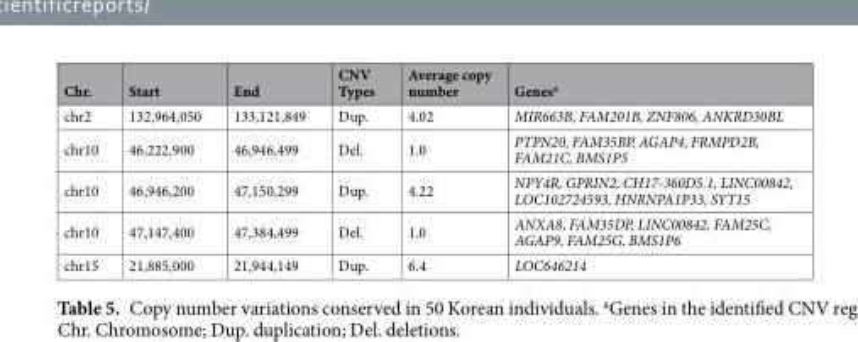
<table><thead><tr><td>Chr.</td><td>Start</td><td>End</td><td>CNV Types</td><td>Average copy number</td><td>Genes<sup>a</sup></td></tr></thead><tbody><tr><td>chr2</td><td>132,964,050</td><td>133,121,849</td><td>Dup.</td><td>4.02</td><td>MIR663B, FAM201B, ZNF806, ANKRD30BL</td></tr><tr><td>chr10</td><td>46,222,900</td><td>46,946,499</td><td>Del.</td><td>1.0</td><td>PTPN20, FAM35BP, AGAP4, FRMPD2B, FAM21C, BMS1P5</td></tr><tr><td>chr10</td><td>46,946,200</td><td>47,150,299</td><td>Dup.</td><td>4.22</td><td>NPY4R, GPRIN2, CH17-360D5.1, LINC00842, LOC102724593, HNRNPA1P33, SYT15</td></tr><tr><td>chr10</td><td>47,147,400</td><td>47,384,499</td><td>Del.</td><td>1.0</td><td>ANXA8, FAM35DP, LINC00842, FAM25C, AGAP9, FAM25G, BMS1P6</td></tr><tr><td>chr15</td><td>21,885,000</td><td>21,944,149</td><td>Dup.</td><td>6.4</td><td>LOC646214</td></tr></tbody></table>